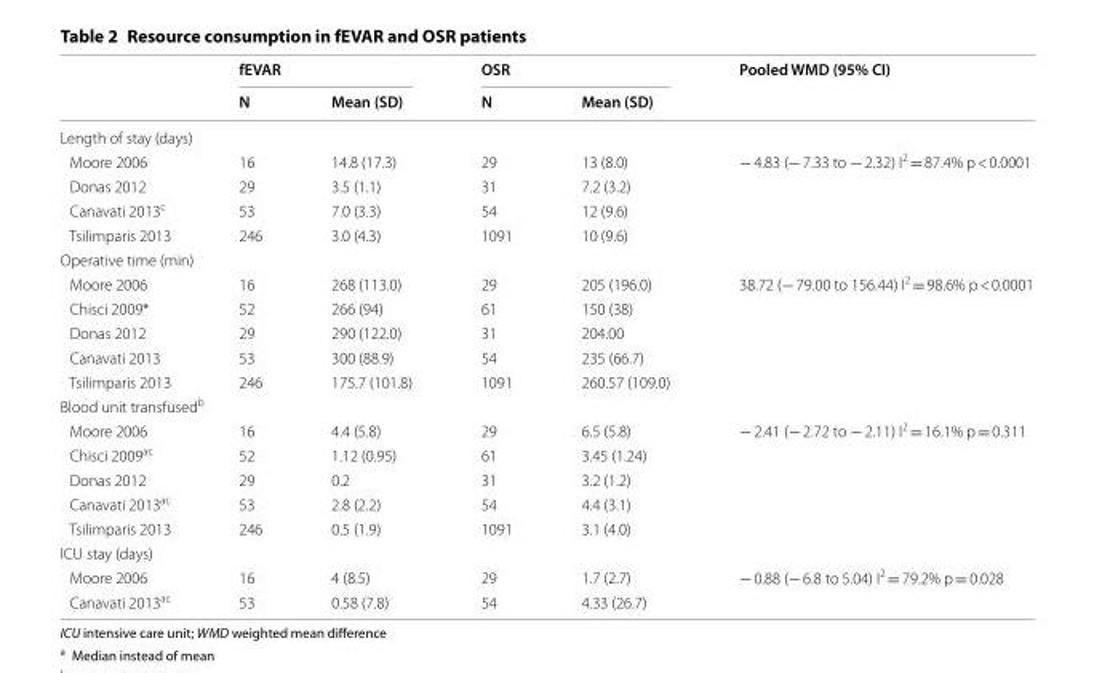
<table><thead><tr><td rowspan="2"></td><td colspan="2">fEVAR</td><td colspan="2">OSR</td><td rowspan="2">Pooled WMD (95% CI)</td></tr><tr><td>N</td><td>Mean (SD)</td><td>N</td><td>Mean (SD)</td></tr></thead><tbody><tr><td colspan="6">Length of stay (days)</td></tr><tr><td>Moore 2006</td><td>16</td><td>14.8 (17.3)</td><td>29</td><td>13 (8.0)</td><td rowspan="4">− 4.83 (− 7.33 to − 2.32) I<sup>2</sup> = 87.4% p &lt; 0.0001</td></tr><tr><td>Donas 2012</td><td>29</td><td>3.5 (1.1)</td><td>31</td><td>7.2 (3.2)</td></tr><tr><td>Canavati 2013<sup>c</sup></td><td>53</td><td>7.0 (3.3)</td><td>54</td><td>12 (9.6)</td></tr><tr><td>Tsilimparis 2013</td><td>246</td><td>3.0 (4.3)</td><td>1091</td><td>10 (9.6)</td></tr><tr><td colspan="6">Operative time (min)</td></tr><tr><td>Moore 2006</td><td>16</td><td>268 (113.0)</td><td>29</td><td>205 (196.0)</td><td rowspan="5">38.72 (− 79.00 to 156.44) I<sup>2</sup> = 98.6% p &lt; 0.0001</td></tr><tr><td>Chisci 2009*</td><td>52</td><td>266 (94)</td><td>61</td><td>150 (38)</td></tr><tr><td>Donas 2012</td><td>29</td><td>290 (122.0)</td><td>31</td><td>204.00</td></tr><tr><td>Canavati 2013</td><td>53</td><td>300 (88.9)</td><td>54</td><td>235 (66.7)</td></tr><tr><td>Tsilimparis 2013</td><td>246</td><td>175.7 (101.8)</td><td>1091</td><td>260.57 (109.0)</td></tr><tr><td colspan="6">Blood unit transfused<sup>b</sup></td></tr><tr><td>Moore 2006</td><td>16</td><td>4.4 (5.8)</td><td>29</td><td>6.5 (5.8)</td><td rowspan="5">− 2.41 (− 2.72 to − 2.11) I<sup>2</sup> = 16.1% p = 0.311</td></tr><tr><td>Chisci 2009<sup>ac</sup></td><td>52</td><td>1.12 (0.95)</td><td>61</td><td>3.45 (1.24)</td></tr><tr><td>Donas 2012</td><td>29</td><td>0.2</td><td>31</td><td>3.2 (1.2)</td></tr><tr><td>Canavati 2013<sup>ac</sup></td><td>53</td><td>2.8 (2.2)</td><td>54</td><td>4.4 (3.1)</td></tr><tr><td>Tsilimparis 2013</td><td>246</td><td>0.5 (1.9)</td><td>1091</td><td>3.1 (4.0)</td></tr><tr><td colspan="6">ICU stay (days)</td></tr><tr><td>Moore 2006</td><td>16</td><td>4 (8.5)</td><td>29</td><td>1.7 (2.7)</td><td rowspan="2">− 0.88 (− 6.8 to 5.04) I<sup>2</sup> = 79.2% p = 0.028</td></tr><tr><td>Canavati 2013<sup>ac</sup></td><td>53</td><td>0.58 (7.8)</td><td>54</td><td>4.33 (26.7)</td></tr></tbody></table>